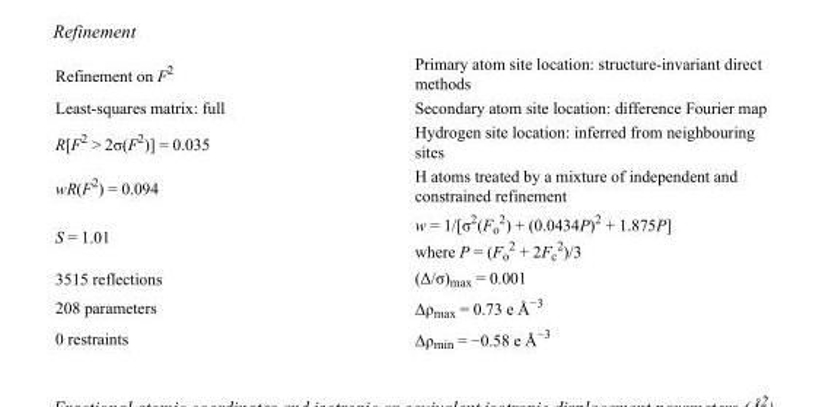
<table><tbody><tr><td>Refinement on F<sup>2</sup></td><td>Primary atom site location: structure-invariant direct methods</td></tr><tr><td>Least-squares matrix: full</td><td>Secondary atom site location: difference Fourier map</td></tr><tr><td>R[F<sup>2</sup> &gt; 2σ(F<sup>2</sup>)] = 0.035</td><td>Hydrogen site location: inferred from neighbouring sites</td></tr><tr><td>wR(F<sup>2</sup>) = 0.094</td><td>H atoms treated by a mixture of independent and constrained refinement</td></tr><tr><td>S = 1.01</td><td>w = 1/[σ<sup>2</sup>(F<sub>o</sub> <sup>2</sup>) + (0.0434P)<sup>2</sup> + 1.875P] where P = (F<sub>o</sub> <sup>2</sup> + 2F<sub>c</sub> <sup>2</sup>)/3</td></tr><tr><td>3515 reflections</td><td>(Δ/σ)<sub>max</sub> = 0.001</td></tr><tr><td>208 parameters</td><td>Δρ<sub>max</sub> = 0.73 e Å<sup>−3</sup></td></tr><tr><td>0 restraints</td><td>Δρ<sub>min</sub> = −0.58 e Å<sup>−3</sup></td></tr></tbody></table>